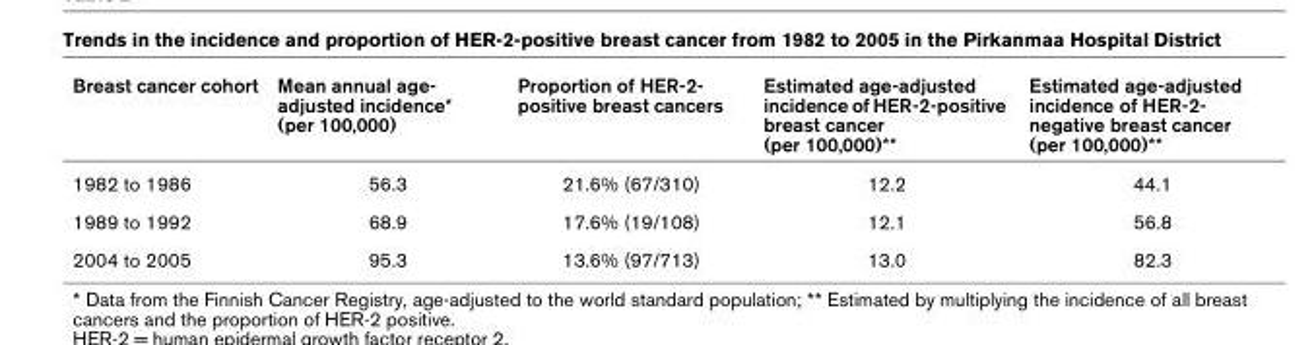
<table><thead><tr><td>Breast cancer cohort</td><td>Mean annual age- adjusted incidence* (per 100,000)</td><td>Proportion of HER-2- positive breast cancers</td><td>Estimated age-adjusted incidence of HER-2-positive breast cancer (per 100,000)**</td><td>Estimated age-adjusted incidence of HER-2- negative breast cancer (per 100,000)**</td></tr></thead><tbody><tr><td>1982 to 1986</td><td>56.3</td><td>21.6% (67/310)</td><td>12.2</td><td>44.1</td></tr><tr><td>1989 to 1992</td><td>68.9</td><td>17.6% (19/108)</td><td>12.1</td><td>56.8</td></tr><tr><td>2004 to 2005</td><td>95.3</td><td>13.6% (97/713)</td><td>13.0</td><td>82.3</td></tr></tbody></table>